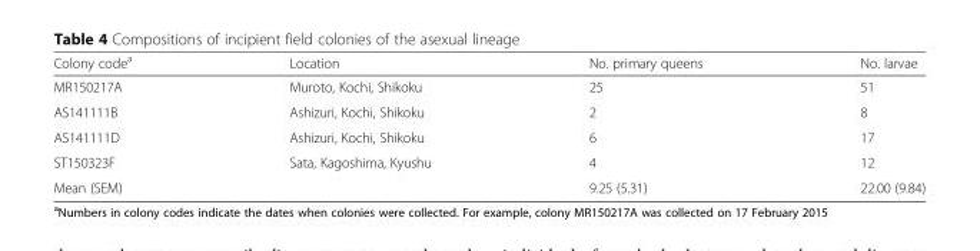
<table><thead><tr><td>Colony code<sup>a</sup></td><td>Location</td><td>No. primary queens</td><td>No. larvae</td></tr></thead><tbody><tr><td>MR150217A</td><td>Muroto, Kochi, Shikoku</td><td>25</td><td>51</td></tr><tr><td>AS141111B</td><td>Ashizuri, Kochi, Shikoku</td><td>2</td><td>8</td></tr><tr><td>AS141111D</td><td>Ashizuri, Kochi, Shikoku</td><td>6</td><td>17</td></tr><tr><td>ST150323F</td><td>Sata, Kagoshima, Kyushu</td><td>4</td><td>12</td></tr><tr><td>Mean (SEM)</td><td></td><td>9.25 (5.31)</td><td>22.00 (9.84)</td></tr></tbody></table>